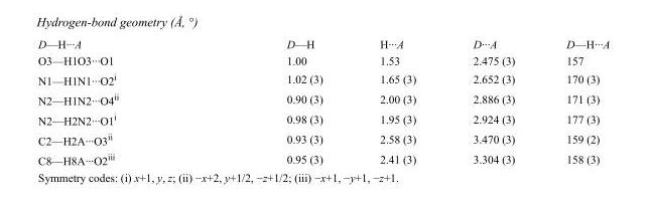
<table><tbody><tr><td>D—H···A</td><td>D—H</td><td>H···A</td><td>D···A</td><td>D—H···A</td></tr><tr><td>O3—H1O3···O1</td><td>1.00</td><td>1.53</td><td>2.475 (3)</td><td>157</td></tr><tr><td>N1—H1N1···O2<sup>i</sup></td><td>1.02 (3)</td><td>1.65 (3)</td><td>2.652 (3)</td><td>170 (3)</td></tr><tr><td>N2—H1N2···O4<sup>ii</sup></td><td>0.90 (3)</td><td>2.00 (3)</td><td>2.886 (3)</td><td>171 (3)</td></tr><tr><td>N2—H2N2···O1<sup>i</sup></td><td>0.98 (3)</td><td>1.95 (3)</td><td>2.924 (3)</td><td>177 (3)</td></tr><tr><td>C2—H2A···O3<sup>ii</sup></td><td>0.93 (3)</td><td>2.58 (3)</td><td>3.470 (3)</td><td>159 (2)</td></tr><tr><td>C8—H8A···O2<sup>iii</sup></td><td>0.95 (3)</td><td>2.41 (3)</td><td>3.304 (3)</td><td>158 (3)</td></tr></tbody></table>